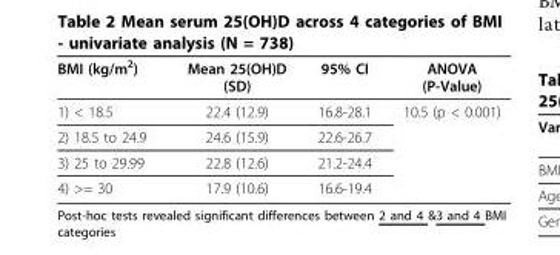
<table><thead><tr><td>BMI (kg/m<sup>2</sup>)</td><td>Mean 25(OH)D (SD)</td><td>95% CI</td><td>ANOVA (P-Value)</td></tr></thead><tbody><tr><td>1) &lt; 18.5</td><td>22.4 (12.9)</td><td>16.8-28.1</td><td>10.5 (p &lt; 0.001)</td></tr><tr><td>2) 18.5 to 24.9</td><td>24.6 (15.9)</td><td>22.6-26.7</td><td></td></tr><tr><td>3) 25 to 29.99</td><td>22.8 (12.6)</td><td>21.2-24.4</td><td></td></tr><tr><td>4) &gt;= 30</td><td>17.9 (10.6)</td><td>16.6-19.4</td><td></td></tr></tbody></table>